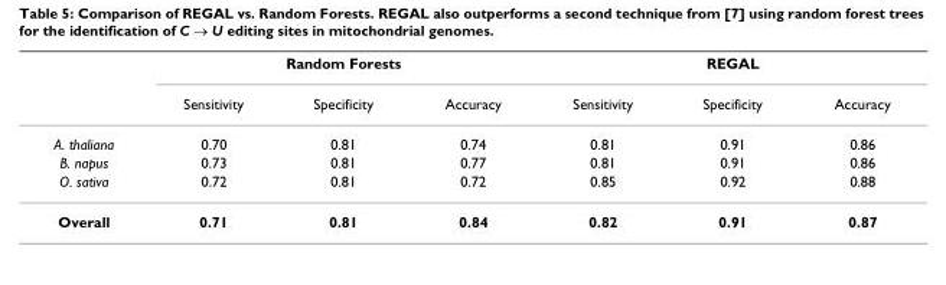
<table><thead><tr><td rowspan="2"></td><td colspan="3">Random Forests</td><td colspan="3">REGAL</td></tr><tr><td>Sensitivity</td><td>Specificity</td><td>Accuracy</td><td>Sensitivity</td><td>Specificity</td><td>Accuracy</td></tr></thead><tbody><tr><td>A. thaliana</td><td>0.70</td><td>0.81</td><td>0.74</td><td>0.81</td><td>0.91</td><td>0.86</td></tr><tr><td>B. napus</td><td>0.73</td><td>0.81</td><td>0.77</td><td>0.81</td><td>0.91</td><td>0.86</td></tr><tr><td>O. sativa</td><td>0.72</td><td>0.81</td><td>0.72</td><td>0.85</td><td>0.92</td><td>0.88</td></tr><tr><td>Overall</td><td>0.71</td><td>0.81</td><td>0.84</td><td>0.82</td><td>0.91</td><td>0.87</td></tr></tbody></table>